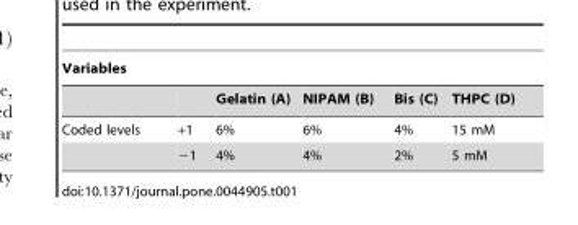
<table><thead><tr><td colspan="6">Variables</td></tr><tr><td></td><td></td><td>Gelatin (A)</td><td>NIPAM (B)</td><td>Bis (C)</td><td>THPC (D)</td></tr></thead><tbody><tr><td rowspan="2">Coded levels</td><td>+1</td><td>6%</td><td>6%</td><td>4%</td><td>15 mM</td></tr><tr><td>−1</td><td>4%</td><td>4%</td><td>2%</td><td>5 mM</td></tr></tbody></table>